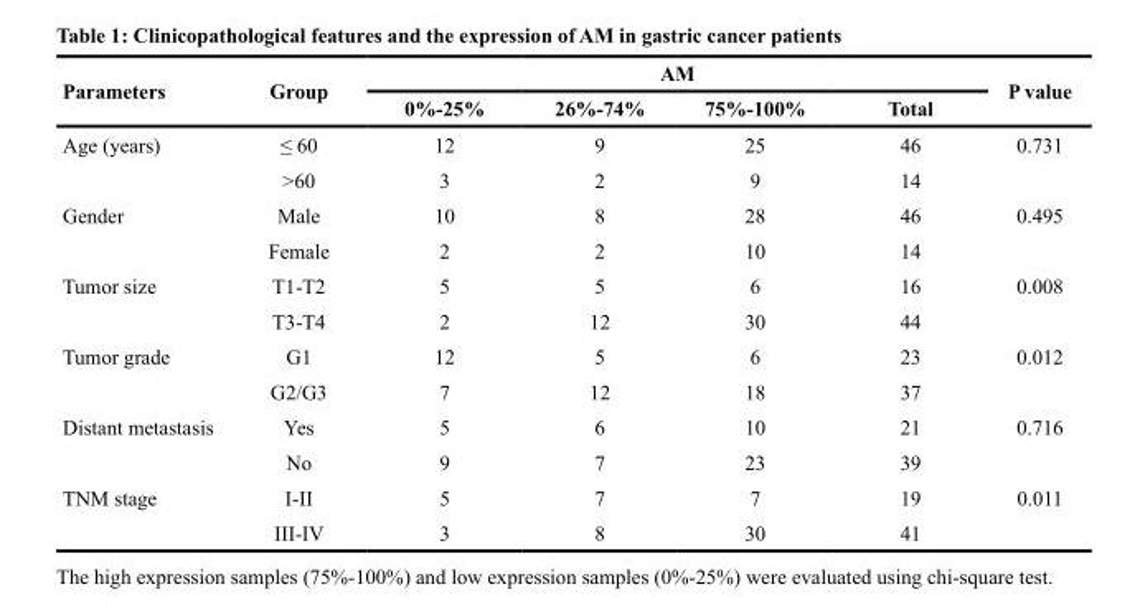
<table><thead><tr><td rowspan="2">Parameters</td><td rowspan="2">Group</td><td colspan="4">AM</td><td rowspan="2">P value</td></tr><tr><td>0%-25%</td><td>26%-74%</td><td>75%-100%</td><td>Total</td></tr></thead><tbody><tr><td rowspan="2">Age (years)</td><td>≤ 60</td><td>12</td><td>9</td><td>25</td><td>46</td><td>0.731</td></tr><tr><td>&gt;60</td><td>3</td><td>2</td><td>9</td><td>14</td><td></td></tr><tr><td rowspan="2">Gender</td><td>Male</td><td>10</td><td>8</td><td>28</td><td>46</td><td>0.495</td></tr><tr><td>Female</td><td>2</td><td>2</td><td>10</td><td>14</td><td></td></tr><tr><td rowspan="2">Tumor size</td><td>T1-T2</td><td>5</td><td>5</td><td>6</td><td>16</td><td>0.008</td></tr><tr><td>T3-T4</td><td>2</td><td>12</td><td>30</td><td>44</td><td></td></tr><tr><td rowspan="2">Tumor grade</td><td>G1</td><td>12</td><td>5</td><td>6</td><td>23</td><td>0.012</td></tr><tr><td>G2/G3</td><td>7</td><td>12</td><td>18</td><td>37</td><td></td></tr><tr><td rowspan="2">Distant metastasis</td><td>Yes</td><td>5</td><td>6</td><td>10</td><td>21</td><td>0.716</td></tr><tr><td>No</td><td>9</td><td>7</td><td>23</td><td>39</td><td></td></tr><tr><td rowspan="2">TNM stage</td><td>I-II</td><td>5</td><td>7</td><td>7</td><td>19</td><td>0.011</td></tr><tr><td>III-IV</td><td>3</td><td>8</td><td>30</td><td>41</td><td></td></tr></tbody></table>